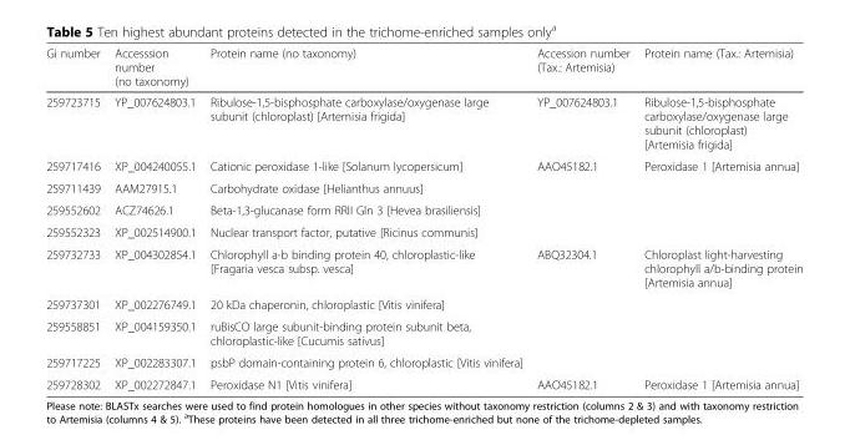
<table><thead><tr><td>Gi number</td><td>Accesssion number (no taxonomy)</td><td>Protein name (no taxonomy)</td><td>Accession number (Tax.: Artemisia)</td><td>Protein name (Tax.: Artemisia)</td></tr></thead><tbody><tr><td>259723715</td><td>YP_007624803.1</td><td>Ribulose-1,5-bisphosphate carboxylase/oxygenase large subunit (chloroplast) [Artemisia frigida]</td><td>YP_007624803.1</td><td>Ribulose-1,5-bisphosphate carboxylase/oxygenase large subunit (chloroplast) [Artemisia frigida]</td></tr><tr><td>259717416</td><td>XP_004240055.1</td><td>Cationic peroxidase 1-like [Solanum lycopersicum]</td><td>AAO45182.1</td><td>Peroxidase 1 [Artemisia annua]</td></tr><tr><td>259711439</td><td>AAM27915.1</td><td>Carbohydrate oxidase [Helianthus annuus]</td><td></td><td></td></tr><tr><td>259552602</td><td>ACZ74626.1</td><td>Beta-1,3-glucanase form RRII Gln 3 [Hevea brasiliensis]</td><td></td><td></td></tr><tr><td>259552323</td><td>XP_002514900.1</td><td>Nuclear transport factor, putative [Ricinus communis]</td><td></td><td></td></tr><tr><td>259732733</td><td>XP_004302854.1</td><td>Chlorophyll a-b binding protein 40, chloroplastic-like [Fragaria vesca subsp. vesca]</td><td>ABQ32304.1</td><td>Chloroplast light-harvesting chlorophyll a/b-binding protein [Artemisia annua]</td></tr><tr><td>259737301</td><td>XP_002276749.1</td><td>20 kDa chaperonin, chloroplastic [Vitis vinifera]</td><td></td><td></td></tr><tr><td>259558851</td><td>XP_004159350.1</td><td>ruBisCO large subunit-binding protein subunit beta, chloroplastic-like [Cucumis sativus]</td><td></td><td></td></tr><tr><td>259717225</td><td>XP_002283307.1</td><td>psbP domain-containing protein 6, chloroplastic [Vitis vinifera]</td><td></td><td></td></tr><tr><td>259728302</td><td>XP_002272847.1</td><td>Peroxidase N1 [Vitis vinifera]</td><td>AAO45182.1</td><td>Peroxidase 1 [Artemisia annua]</td></tr></tbody></table>